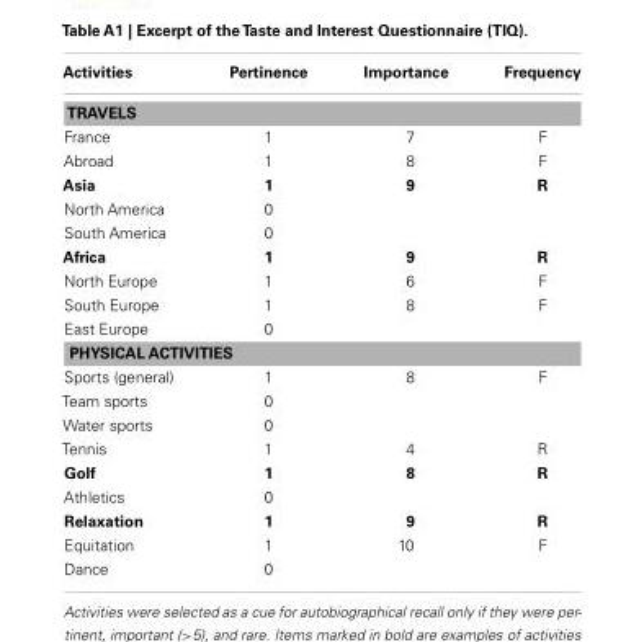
<table><thead><tr><td>Activities</td><td>Pertinence</td><td>Importance</td><td>Frequency</td></tr></thead><tbody><tr><td colspan="4">TRAVELS</td></tr><tr><td>France</td><td>1</td><td>7</td><td>F</td></tr><tr><td>Abroad</td><td>1</td><td>8</td><td>F</td></tr><tr><td>Asia</td><td>1</td><td>9</td><td>R</td></tr><tr><td>North America</td><td>0</td><td></td><td></td></tr><tr><td>South America</td><td>0</td><td></td><td></td></tr><tr><td>Africa</td><td>1</td><td>9</td><td>R</td></tr><tr><td>North Europe</td><td>1</td><td>6</td><td>F</td></tr><tr><td>South Europe</td><td>1</td><td>8</td><td>F</td></tr><tr><td>East Europe</td><td>0</td><td></td><td></td></tr><tr><td colspan="4">PHYSICAL ACTIVITIES</td></tr><tr><td>Sports (general)</td><td>1</td><td>8</td><td>F</td></tr><tr><td>Team sports</td><td>0</td><td></td><td></td></tr><tr><td>Water sports</td><td>0</td><td></td><td></td></tr><tr><td>Tennis</td><td>1</td><td>4</td><td>R</td></tr><tr><td>Golf</td><td>1</td><td>8</td><td>R</td></tr><tr><td>Athletics</td><td>0</td><td></td><td></td></tr><tr><td>Relaxation</td><td>1</td><td>9</td><td>R</td></tr><tr><td>Equitation</td><td>1</td><td>10</td><td>F</td></tr><tr><td>Dance</td><td>0</td><td></td><td></td></tr></tbody></table>